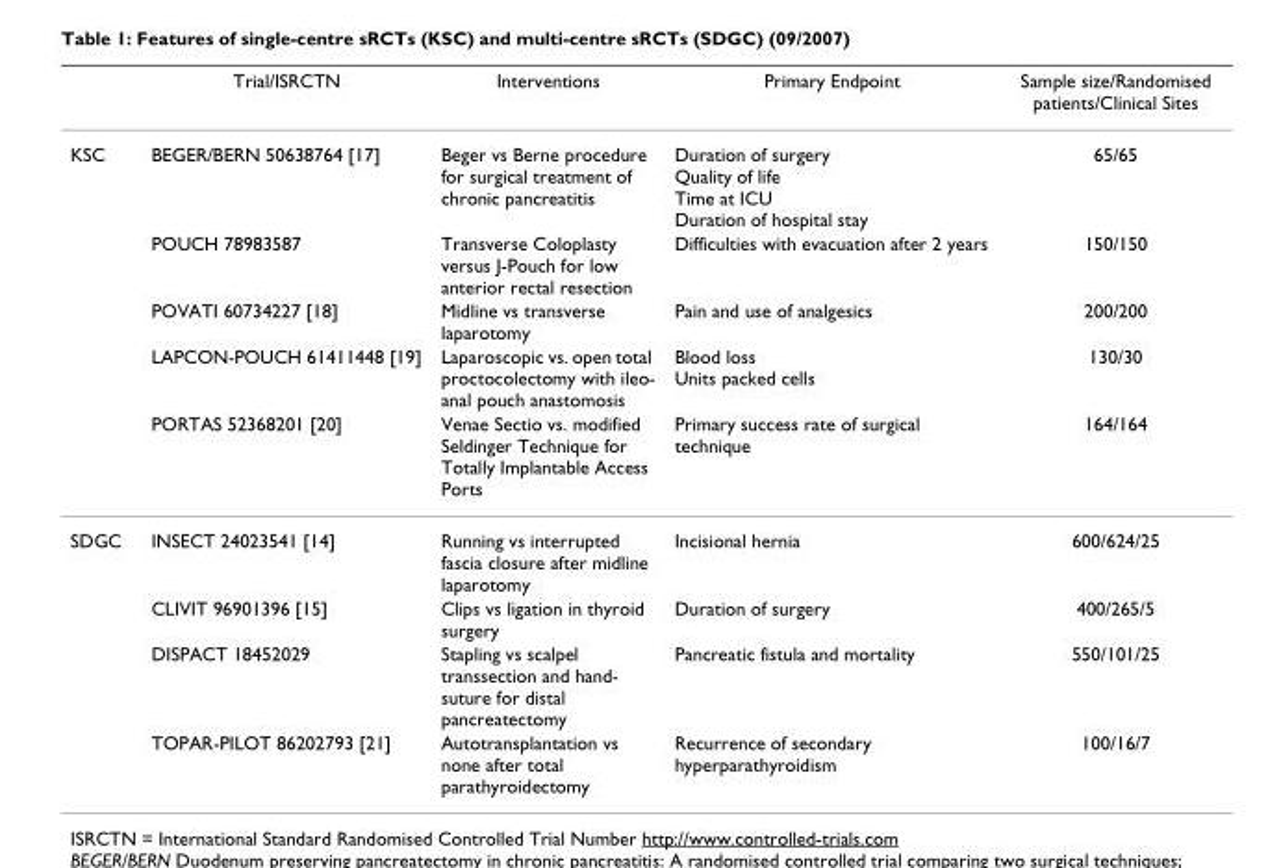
<table><thead><tr><td></td><td>Trial/ISRCTN</td><td>Interventions</td><td>Primary Endpoint</td><td>Sample size/Randomised patients/Clinical Sites</td></tr></thead><tbody><tr><td rowspan="5">KSC</td><td>BEGER/BERN 50638764 [17]</td><td>Beger vs Berne procedure for surgical treatment of chronic pancreatitis</td><td>Duration of surgery Quality of life Time at ICU Duration of hospital stay</td><td>65/65</td></tr><tr><td>POUCH 78983587</td><td>Transverse Coloplasty versus J-Pouch for low anterior rectal resection</td><td>Difficulties with evacuation after 2 years</td><td>150/150</td></tr><tr><td>POVATI 60734227 [18]</td><td>Midline vs transverse laparotomy</td><td>Pain and use of analgesics</td><td>200/200</td></tr><tr><td>LAPCON-POUCH 61411448 [19]</td><td>Laparoscopic vs. open total proctocolectomy with ileo- anal pouch anastomosis</td><td>Blood loss Units packed cells</td><td>130/30</td></tr><tr><td>PORTAS 52368201 [20]</td><td>Venae Sectio vs. modified Seldinger Technique for Totally Implantable Access Ports</td><td>Primary success rate of surgical technique</td><td>164/164</td></tr><tr><td rowspan="4">SDGC</td><td>INSECT 24023541 [14]</td><td>Running vs interrupted fascia closure after midline laparotomy</td><td>Incisional hernia</td><td>600/624/25</td></tr><tr><td>CLIVIT 96901396 [15]</td><td>Clips vs ligation in thyroid surgery</td><td>Duration of surgery</td><td>400/265/5</td></tr><tr><td>DISPACT 18452029</td><td>Stapling vs scalpel transsection and hand- suture for distal pancreatectomy</td><td>Pancreatic fistula and mortality</td><td>550/101/25</td></tr><tr><td>TOPAR-PILOT 86202793 [21]</td><td>Autotransplantation vs none after total parathyroidectomy</td><td>Recurrence of secondary hyperparathyroidism</td><td>100/16/7</td></tr></tbody></table>